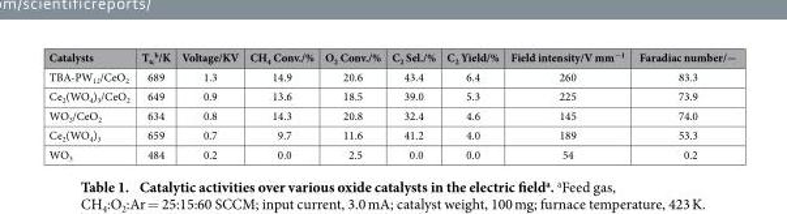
<table><thead><tr><td>Catalysts</td><td>T<sub>tc</sub> <sup>b</sup>/K</td><td>Voltage/KV</td><td>CH<sub>4</sub> Conv./%</td><td>O<sub>2</sub> Conv./%</td><td>C<sub>2</sub> Sel./%</td><td>C<sub>2</sub> Yield/%</td><td>Field intensity/V mm<sup>−1</sup></td><td>Faradiac number/−</td></tr></thead><tbody><tr><td>TBA-PW<sub>12</sub>/CeO<sub>2</sub></td><td>689</td><td>1.3</td><td>14.9</td><td>20.6</td><td>43.4</td><td>6.4</td><td>260</td><td>83.3</td></tr><tr><td>Ce<sub>2</sub>(WO<sub>4</sub>)<sub>3</sub>/CeO<sub>2</sub></td><td>649</td><td>0.9</td><td>13.6</td><td>18.5</td><td>39.0</td><td>5.3</td><td>225</td><td>73.9</td></tr><tr><td>WO<sub>3</sub>/CeO<sub>2</sub></td><td>634</td><td>0.8</td><td>14.3</td><td>20.8</td><td>32.4</td><td>4.6</td><td>145</td><td>74.0</td></tr><tr><td>Ce<sub>2</sub>(WO<sub>4</sub>)<sub>3</sub></td><td>659</td><td>0.7</td><td>9.7</td><td>11.6</td><td>41.2</td><td>4.0</td><td>189</td><td>53.3</td></tr><tr><td>WO<sub>3</sub></td><td>484</td><td>0.2</td><td>0.0</td><td>2.5</td><td>0.0</td><td>0.0</td><td>54</td><td>0.2</td></tr></tbody></table>